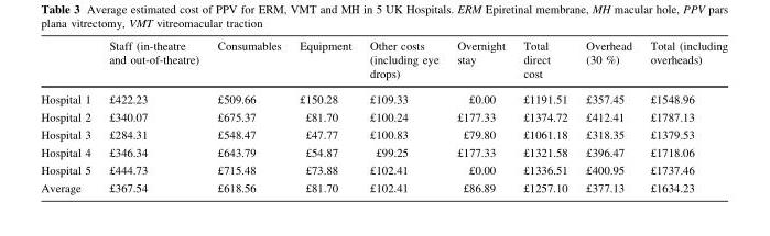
<table><thead><tr><td></td><td>Staff (in-theatre and out-of-theatre)</td><td>Consumables</td><td>Equipment</td><td>Other costs (including eye drops)</td><td>Overnight stay</td><td>Total direct cost</td><td>Overhead (30 %)</td><td>Total (including overheads)</td></tr></thead><tbody><tr><td>Hospital 1</td><td>£422.23</td><td>£509.66</td><td>£150.28</td><td>£109.33</td><td>£0.00</td><td>£1191.51</td><td>£357.45</td><td>£1548.96</td></tr><tr><td>Hospital 2</td><td>£340.07</td><td>£675.37</td><td>£81.70</td><td>£100.24</td><td>£177.33</td><td>£1374.72</td><td>£412.41</td><td>£1787.13</td></tr><tr><td>Hospital 3</td><td>£284.31</td><td>£548.47</td><td>£47.77</td><td>£100.83</td><td>£79.80</td><td>£1061.18</td><td>£318.35</td><td>£1379.53</td></tr><tr><td>Hospital 4</td><td>£346.34</td><td>£643.79</td><td>£54.87</td><td>£99.25</td><td>£177.33</td><td>£1321.58</td><td>£396.47</td><td>£1718.06</td></tr><tr><td>Hospital 5</td><td>£444.73</td><td>£715.48</td><td>£73.88</td><td>£102.41</td><td>£0.00</td><td>£1336.51</td><td>£400.95</td><td>£1737.46</td></tr><tr><td>Average</td><td>£367.54</td><td>£618.56</td><td>£81.70</td><td>£102.41</td><td>£86.89</td><td>£1257.10</td><td>£377.13</td><td>£1634.23</td></tr></tbody></table>